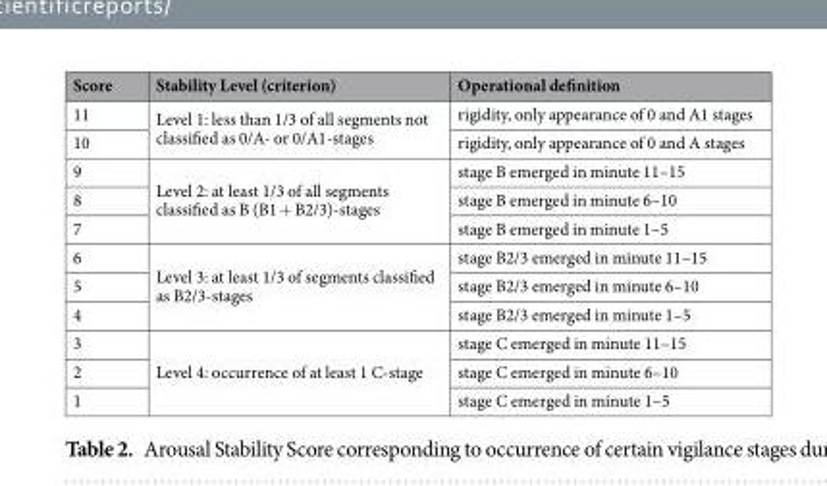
<table><thead><tr><td>Score</td><td>Stability Level (criterion)</td><td>Operational definition</td></tr></thead><tbody><tr><td>11</td><td rowspan="2">Level 1: less than 1/3 of all segments not classified as 0/A- or 0/A1-stages</td><td>rigidity, only appearance of 0 and A1 stages</td></tr><tr><td>10</td><td>rigidity, only appearance of 0 and A stages</td></tr><tr><td>9</td><td rowspan="3">Level 2: at least 1/3 of all segments classified as B (B1 + B2/3)-stages</td><td>stage B emerged in minute 11–15</td></tr><tr><td>8</td><td>stage B emerged in minute 6–10</td></tr><tr><td>7</td><td>stage B emerged in minute 1–5</td></tr><tr><td>6</td><td rowspan="3">Level 3: at least 1/3 of segments classified as B2/3-stages</td><td>stage B2/3 emerged in minute 11–15</td></tr><tr><td>5</td><td>stage B2/3 emerged in minute 6–10</td></tr><tr><td>4</td><td>stage B2/3 emerged in minute 1–5</td></tr><tr><td>3</td><td rowspan="3">Level 4: occurrence of at least 1 C-stage</td><td>stage C emerged in minute 11–15</td></tr><tr><td>2</td><td>stage C emerged in minute 6–10</td></tr><tr><td>1</td><td>stage C emerged in minute 1–5</td></tr></tbody></table>